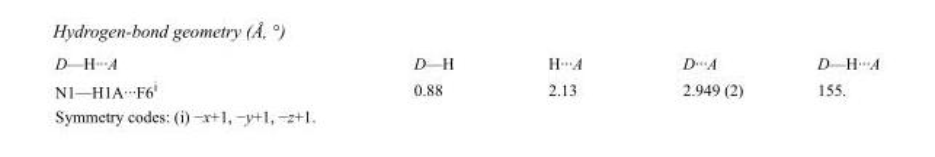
<table><tbody><tr><td>D—H···A</td><td>D—H</td><td>H···A</td><td>D···A</td><td>D—H···A</td></tr><tr><td>N1—H1A···F6<sup>i</sup></td><td>0.88</td><td>2.13</td><td>2.949 (2)</td><td>155.</td></tr></tbody></table>